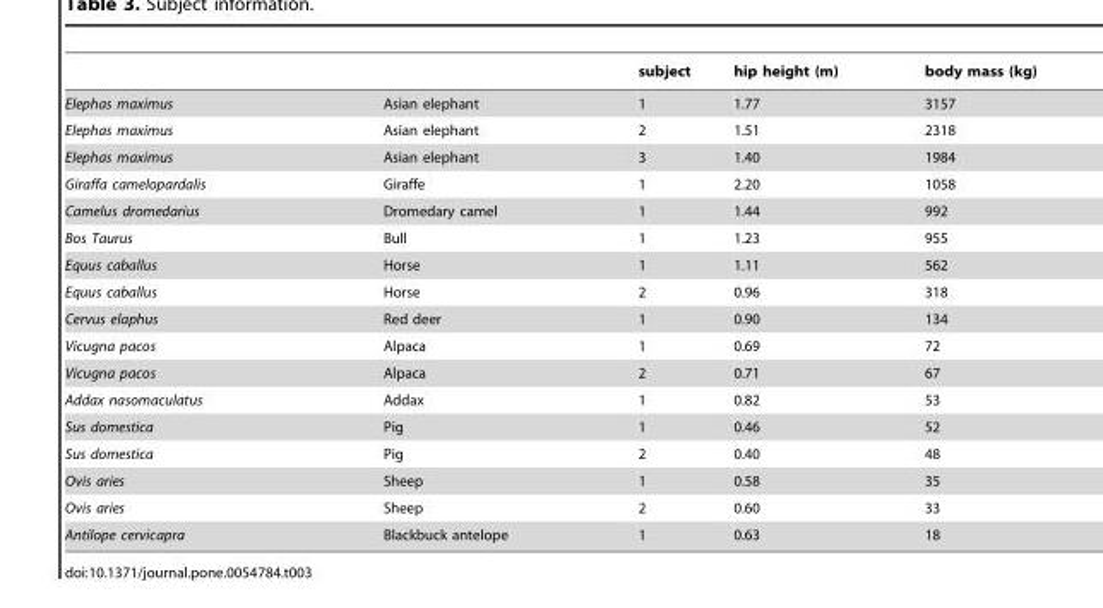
<table><thead><tr><td></td><td></td><td>subject</td><td>hip height (m)</td><td>body mass (kg)</td></tr></thead><tbody><tr><td>Elephas maximus</td><td>Asian elephant</td><td>1</td><td>1.77</td><td>3157</td></tr><tr><td>Elephas maximus</td><td>Asian elephant</td><td>2</td><td>1.51</td><td>2318</td></tr><tr><td>Elephas maximus</td><td>Asian elephant</td><td>3</td><td>1.40</td><td>1984</td></tr><tr><td>Giraffa camelopardalis</td><td>Giraffe</td><td>1</td><td>2.20</td><td>1058</td></tr><tr><td>Camelus dromedarius</td><td>Dromedary camel</td><td>1</td><td>1.44</td><td>992</td></tr><tr><td>Bos Taurus</td><td>Bull</td><td>1</td><td>1.23</td><td>955</td></tr><tr><td>Equus caballus</td><td>Horse</td><td>1</td><td>1.11</td><td>562</td></tr><tr><td>Equus caballus</td><td>Horse</td><td>2</td><td>0.96</td><td>318</td></tr><tr><td>Cervus elaphus</td><td>Red deer</td><td>1</td><td>0.90</td><td>134</td></tr><tr><td>Vicugna pacos</td><td>Alpaca</td><td>1</td><td>0.69</td><td>72</td></tr><tr><td>Vicugna pacos</td><td>Alpaca</td><td>2</td><td>0.71</td><td>67</td></tr><tr><td>Addax nasomaculatus</td><td>Addax</td><td>1</td><td>0.82</td><td>53</td></tr><tr><td>Sus domestica</td><td>Pig</td><td>1</td><td>0.46</td><td>52</td></tr><tr><td>Sus domestica</td><td>Pig</td><td>2</td><td>0.40</td><td>48</td></tr><tr><td>Ovis aries</td><td>Sheep</td><td>1</td><td>0.58</td><td>35</td></tr><tr><td>Ovis aries</td><td>Sheep</td><td>2</td><td>0.60</td><td>33</td></tr><tr><td>Antilope cervicapra</td><td>Blackbuck antelope</td><td>1</td><td>0.63</td><td>18</td></tr></tbody></table>